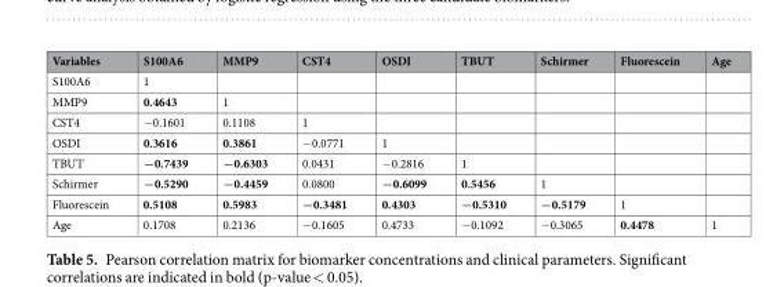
<table><thead><tr><td>Variables</td><td>S100A6</td><td>MMP9</td><td>CST4</td><td>OSDI</td><td>TBUT</td><td>Schirmer</td><td>Fluorescein</td><td>Age</td></tr></thead><tbody><tr><td>S100A6</td><td>1</td><td></td><td></td><td></td><td></td><td></td><td></td><td></td></tr><tr><td>MMP9</td><td>0.4643</td><td>1</td><td></td><td></td><td></td><td></td><td></td><td></td></tr><tr><td>CST4</td><td>−0.1601</td><td>0.1108</td><td>1</td><td></td><td></td><td></td><td></td><td></td></tr><tr><td>OSDI</td><td>0.3616</td><td>0.3861</td><td>−0.0771</td><td>1</td><td></td><td></td><td></td><td></td></tr><tr><td>TBUT</td><td>−0.7439</td><td>−0.6303</td><td>0.0431</td><td>−0.2816</td><td>1</td><td></td><td></td><td></td></tr><tr><td>Schirmer</td><td>−0.5290</td><td>−0.4459</td><td>0.0800</td><td>−0.6099</td><td>0.5456</td><td>1</td><td></td><td></td></tr><tr><td>Fluorescein</td><td>0.5108</td><td>0.5983</td><td>−0.3481</td><td>0.4303</td><td>−0.5310</td><td>−0.5179</td><td>1</td><td></td></tr><tr><td>Age</td><td>0.1708</td><td>0.2136</td><td>−0.1605</td><td>0.4733</td><td>−0.1092</td><td>−0.3065</td><td>0.4478</td><td>1</td></tr></tbody></table>